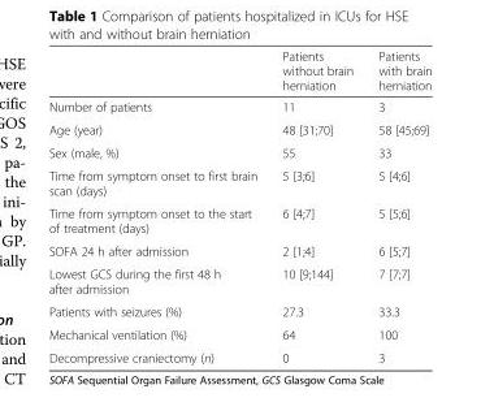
<table><thead><tr><td></td><td>Patients without brain herniation</td><td>Patients with brain herniation</td></tr></thead><tbody><tr><td>Number of patients</td><td>11</td><td>3</td></tr><tr><td>Age (year)</td><td>48 [31;70]</td><td>58 [45;69]</td></tr><tr><td>Sex (male, %)</td><td>55</td><td>33</td></tr><tr><td>Time from symptom onset to first brain scan (days)</td><td>5 [3;6]</td><td>5 [4;6]</td></tr><tr><td>Time from symptom onset to the start of treatment (days)</td><td>6 [4;7]</td><td>5 [5;6]</td></tr><tr><td>SOFA 24 h after admission</td><td>2 [1;4]</td><td>6 [5;7]</td></tr><tr><td>Lowest GCS during the first 48 h after admission</td><td>10 [9;144]</td><td>7 [7;7]</td></tr><tr><td>Patients with seizures (%)</td><td>27.3</td><td>33.3</td></tr><tr><td>Mechanical ventilation (%)</td><td>64</td><td>100</td></tr><tr><td>Decompressive craniectomy (n)</td><td>0</td><td>3</td></tr></tbody></table>